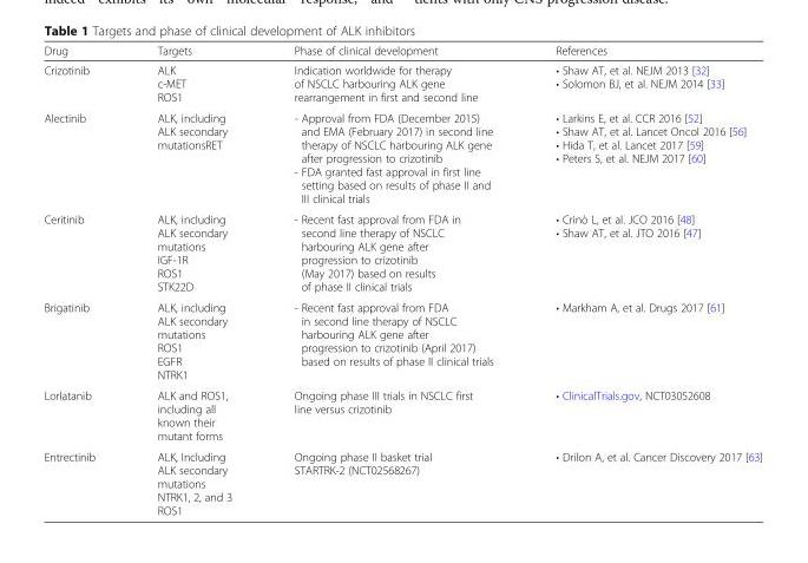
<table><thead><tr><td>Drug</td><td>Targets</td><td>Phase of clinical development</td><td>References</td></tr></thead><tbody><tr><td>Crizotinib</td><td>ALK c-MET ROS1</td><td>Indication worldwide for therapy of NSCLC harbouring ALK gene rearrangement in first and second line</td><td>• Shaw AT, et al. NEJM 2013 [32] • Solomon BJ, et al. NEJM 2014 [33]</td></tr><tr><td>Alectinib</td><td>ALK, including ALK secondary mutationsRET</td><td>- Approval from FDA (December 2015) and EMA (February 2017) in second line therapy of NSCLC harbouring ALK gene after progression to crizotinib - FDA granted fast approval in first line setting based on results of phase II and III clinical trials</td><td>• Larkins E, et al. CCR 2016 [52] • Shaw AT, et al. Lancet Oncol 2016 [56] • Hida T, et al. Lancet 2017 [59] • Peters S, et al. NEJM 2017 [60]</td></tr><tr><td>Ceritinib</td><td>ALK, including ALK secondary mutations IGF-1R ROS1 STK22D</td><td>- Recent fast approval from FDA in second line therapy of NSCLC harbouring ALK gene after progression to crizotinib (May 2017) based on results of phase II clinical trials</td><td>• Crinò L, et al. JCO 2016 [48] • Shaw AT, et al. JTO 2016 [47]</td></tr><tr><td>Brigatinib</td><td>ALK, including ALK secondary mutations ROS1 EGFR NTRK1</td><td>- Recent fast approval from FDA in second line therapy of NSCLC harbouring ALK gene after progression to crizotinib (April 2017) based on results of phase II clinical trials</td><td>• Markham A, et al. Drugs 2017 [61]</td></tr><tr><td>Lorlatanib</td><td>ALK and ROS1, including all known their mutant forms</td><td>Ongoing phase III trials in NSCLC first line versus crizotinib</td><td>• ClinicalTrials.gov, NCT03052608</td></tr><tr><td>Entrectinib</td><td>ALK, Including ALK secondary mutations NTRK1, 2, and 3 ROS1</td><td>Ongoing phase II basket trial STARTRK-2 (NCT02568267)</td><td>• Drilon A, et al. Cancer Discovery 2017 [63]</td></tr></tbody></table>